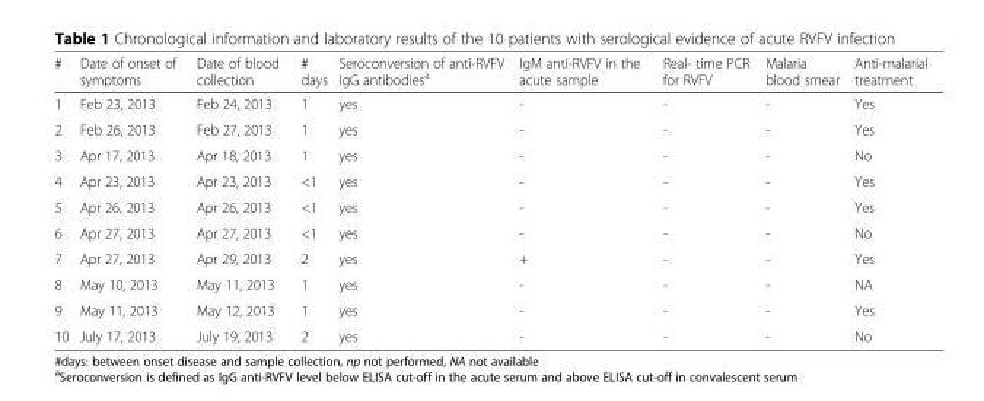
<table><thead><tr><td>#</td><td>Date of onset of symptoms</td><td>Date of blood collection</td><td># days</td><td>Seroconversion of anti-RVFV IgG antibodies<sup>a</sup></td><td>IgM anti-RVFV in the acute sample</td><td>Real- time PCR for RVFV</td><td>Malaria blood smear</td><td>Anti-malarial treatment</td></tr></thead><tbody><tr><td>1</td><td>Feb 23, 2013</td><td>Feb 24, 2013</td><td>1</td><td>yes</td><td>-</td><td>-</td><td>-</td><td>Yes</td></tr><tr><td>2</td><td>Feb 26, 2013</td><td>Feb 27, 2013</td><td>1</td><td>yes</td><td>-</td><td>-</td><td>-</td><td>Yes</td></tr><tr><td>3</td><td>Apr 17, 2013</td><td>Apr 18, 2013</td><td>1</td><td>yes</td><td>-</td><td>-</td><td>-</td><td>No</td></tr><tr><td>4</td><td>Apr 23, 2013</td><td>Apr 23, 2013</td><td>&lt;1</td><td>yes</td><td>-</td><td>-</td><td>-</td><td>Yes</td></tr><tr><td>5</td><td>Apr 26, 2013</td><td>Apr 26, 2013</td><td>&lt;1</td><td>yes</td><td>-</td><td>-</td><td>-</td><td>Yes</td></tr><tr><td>6</td><td>Apr 27, 2013</td><td>Apr 27, 2013</td><td>&lt;1</td><td>yes</td><td>-</td><td>-</td><td>-</td><td>No</td></tr><tr><td>7</td><td>Apr 27, 2013</td><td>Apr 29, 2013</td><td>2</td><td>yes</td><td>+</td><td>-</td><td>-</td><td>Yes</td></tr><tr><td>8</td><td>May 10, 2013</td><td>May 11, 2013</td><td>1</td><td>yes</td><td>-</td><td>-</td><td>-</td><td>NA</td></tr><tr><td>9</td><td>May 11, 2013</td><td>May 12, 2013</td><td>1</td><td>yes</td><td>-</td><td>-</td><td>-</td><td>Yes</td></tr><tr><td>10</td><td>July 17, 2013</td><td>July 19, 2013</td><td>2</td><td>yes</td><td>-</td><td>-</td><td>-</td><td>No</td></tr></tbody></table>